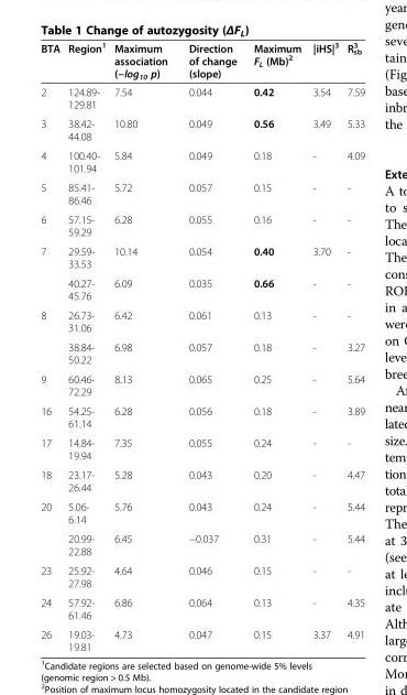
<table><thead><tr><td>BTA</td><td>Region<sup>1</sup></td><td>Maximum association (−log<sub>10</sub> p)</td><td>Direction of change (slope)</td><td>Maximum F<sub>L</sub> (Mb)<sup>2</sup></td><td>|iHS|<sup>3</sup></td><td>R<sub>sb</sub> <sup>3</sup></td></tr></thead><tbody><tr><td>2</td><td>124.89- 129.81</td><td>7.54</td><td>0.044</td><td>0.42</td><td>3.54</td><td>7.59</td></tr><tr><td>3</td><td>38.42- 44.08</td><td>10.80</td><td>0.049</td><td>0.56</td><td>3.49</td><td>5.33</td></tr><tr><td>4</td><td>100.40- 101.94</td><td>5.84</td><td>0.049</td><td>0.18</td><td>-</td><td>4.09</td></tr><tr><td>5</td><td>85.41- 86.46</td><td>5.72</td><td>0.057</td><td>0.15</td><td>-</td><td>-</td></tr><tr><td>6</td><td>57.15- 59.29</td><td>6.28</td><td>0.055</td><td>0.16</td><td>-</td><td>-</td></tr><tr><td rowspan="2">7</td><td>29.59- 33.53</td><td>10.14</td><td>0.054</td><td>0.40</td><td>3.70</td><td>-</td></tr><tr><td>40.27- 45.76</td><td>6.09</td><td>0.035</td><td>0.66</td><td>-</td><td>-</td></tr><tr><td rowspan="2">8</td><td>26.73- 31.06</td><td>6.42</td><td>0.061</td><td>0.13</td><td>-</td><td>-</td></tr><tr><td>38.84- 50.22</td><td>6.98</td><td>0.057</td><td>0.18</td><td>-</td><td>3.27</td></tr><tr><td>9</td><td>60.46- 72.29</td><td>8.13</td><td>0.065</td><td>0.25</td><td>-</td><td>5.64</td></tr><tr><td>16</td><td>54.25- 61.14</td><td>6.28</td><td>0.056</td><td>0.18</td><td>-</td><td>3.89</td></tr><tr><td>17</td><td>14.84- 19.94</td><td>7.35</td><td>0.055</td><td>0.24</td><td>-</td><td>-</td></tr><tr><td>18</td><td>23.17- 26.44</td><td>5.28</td><td>0.043</td><td>0.20</td><td>-</td><td>4.47</td></tr><tr><td rowspan="2">20</td><td>5.06- 6.14</td><td>5.76</td><td>0.043</td><td>0.24</td><td>-</td><td>5.44</td></tr><tr><td>20.99- 22.88</td><td>6.45</td><td>−0.037</td><td>0.31</td><td>-</td><td>5.44</td></tr><tr><td>23</td><td>25.92- 27.98</td><td>4.64</td><td>0.046</td><td>0.15</td><td>-</td><td>-</td></tr><tr><td>24</td><td>57.92- 61.46</td><td>6.86</td><td>0.064</td><td>0.13</td><td>-</td><td>4.35</td></tr><tr><td>26</td><td>19.03- 19.81</td><td>4.73</td><td>0.047</td><td>0.15</td><td>3.37</td><td>4.91</td></tr></tbody></table>